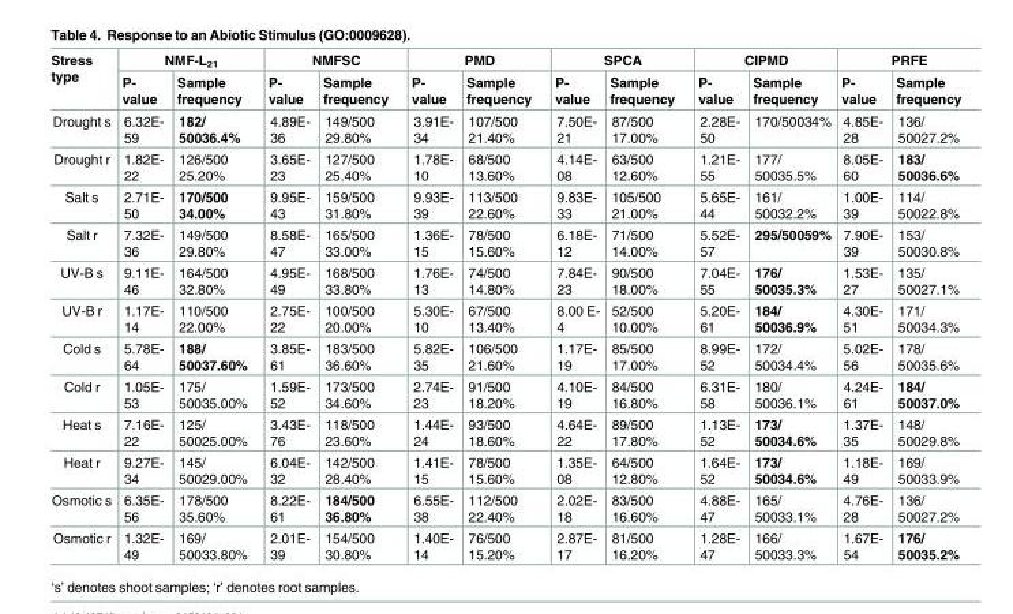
<table><thead><tr><td rowspan="2">Stress type</td><td colspan="2">NMF-L<sub>21</sub></td><td colspan="2">NMFSC</td><td colspan="2">PMD</td><td colspan="2">SPCA</td><td colspan="2">CIPMD</td><td colspan="2">PRFE</td></tr><tr><td>P- value</td><td>Sample frequency</td><td>P- value</td><td>Sample frequency</td><td>P- value</td><td>Sample frequency</td><td>P- value</td><td>Sample frequency</td><td>P- value</td><td>Sample frequency</td><td>P- value</td><td>Sample frequency</td></tr></thead><tbody><tr><td>Drought s</td><td>6.32E- 59</td><td>182/ 50036.4%</td><td>4.89E- 36</td><td>149/500 29.80%</td><td>3.91E- 34</td><td>107/500 21.40%</td><td>7.50E- 21</td><td>87/500 17.00%</td><td>2.28E- 50</td><td>170/50034%</td><td>4.85E- 28</td><td>136/ 50027.2%</td></tr><tr><td>Drought r</td><td>1.82E- 22</td><td>126/500 25.20%</td><td>3.65E- 23</td><td>127/500 25.40%</td><td>1.78E- 10</td><td>68/500 13.60%</td><td>4.14E- 08</td><td>63/500 12.60%</td><td>1.21E- 55</td><td>177/ 50035.5%</td><td>8.05E- 60</td><td>183/ 50036.6%</td></tr><tr><td>Salt s</td><td>2.71E- 50</td><td>170/500 34.00%</td><td>9.95E- 43</td><td>159/500 31.80%</td><td>9.93E- 39</td><td>113/500 22.60%</td><td>9.83E- 33</td><td>105/500 21.00%</td><td>5.65E- 44</td><td>161/ 50032.2%</td><td>1.00E- 39</td><td>114/ 50022.8%</td></tr><tr><td>Salt r</td><td>7.32E- 36</td><td>149/500 29.80%</td><td>8.58E- 47</td><td>165/500 33.00%</td><td>1.36E- 15</td><td>78/500 15.60%</td><td>6.18E- 12</td><td>71/500 14.00%</td><td>5.52E- 57</td><td>295/50059%</td><td>7.90E- 39</td><td>153/ 50030.8%</td></tr><tr><td>UV-B s</td><td>9.11E- 46</td><td>164/500 32.80%</td><td>4.95E- 49</td><td>168/500 33.80%</td><td>1.76E- 13</td><td>74/500 14.80%</td><td>7.84E- 23</td><td>90/500 18.00%</td><td>7.04E- 55</td><td>176/ 50035.3%</td><td>1.53E- 27</td><td>135/ 50027.1%</td></tr><tr><td>UV-B r</td><td>1.17E- 14</td><td>110/500 22.00%</td><td>2.75E- 22</td><td>100/500 20.00%</td><td>5.30E- 10</td><td>67/500 13.40%</td><td>8.00 E- 4</td><td>52/500 10.00%</td><td>5.20E- 61</td><td>184/ 50036.9%</td><td>4.30E- 51</td><td>171/ 50034.3%</td></tr><tr><td>Cold s</td><td>5.78E- 64</td><td>188/ 50037.60%</td><td>3.85E- 61</td><td>183/500 36.60%</td><td>5.82E- 35</td><td>106/500 21.60%</td><td>1.17E- 19</td><td>85/500 17.00%</td><td>8.99E- 52</td><td>172/ 50034.4%</td><td>5.02E- 56</td><td>178/ 50035.6%</td></tr><tr><td>Cold r</td><td>1.05E- 53</td><td>175/ 50035.00%</td><td>1.59E- 52</td><td>173/500 34.60%</td><td>2.74E- 23</td><td>91/500 18.20%</td><td>4.10E- 19</td><td>84/500 16.80%</td><td>6.31E- 58</td><td>180/ 50036.1%</td><td>4.24E- 61</td><td>184/ 50037.0%</td></tr><tr><td>Heat s</td><td>7.16E- 22</td><td>125/ 50025.00%</td><td>3.43E- 76</td><td>118/500 23.60%</td><td>1.44E- 24</td><td>93/500 18.60%</td><td>4.64E- 22</td><td>89/500 17.80%</td><td>1.13E- 52</td><td>173/ 50034.6%</td><td>1.37E- 35</td><td>148/ 50029.8%</td></tr><tr><td>Heat r</td><td>9.27E- 34</td><td>145/ 50029.00%</td><td>6.04E- 32</td><td>142/500 28.40%</td><td>1.41E- 15</td><td>78/500 15.60%</td><td>1.35E- 08</td><td>64/500 12.80%</td><td>1.64E- 52</td><td>173/ 50034.6%</td><td>1.18E- 49</td><td>169/ 50033.9%</td></tr><tr><td>Osmotic s</td><td>6.35E- 56</td><td>178/500 35.60%</td><td>8.22E- 61</td><td>184/500 36.80%</td><td>6.55E- 38</td><td>112/500 22.40%</td><td>2.02E- 18</td><td>83/500 16.60%</td><td>4.88E- 47</td><td>165/ 50033.1%</td><td>4.76E- 28</td><td>136/ 50027.2%</td></tr><tr><td>Osmotic r</td><td>1.32E- 49</td><td>169/ 50033.80%</td><td>2.01E- 39</td><td>154/500 30.80%</td><td>1.40E- 14</td><td>76/500 15.20%</td><td>2.87E- 17</td><td>81/500 16.20%</td><td>1.28E- 47</td><td>166/ 50033.3%</td><td>1.67E- 54</td><td>176/ 50035.2%</td></tr></tbody></table>